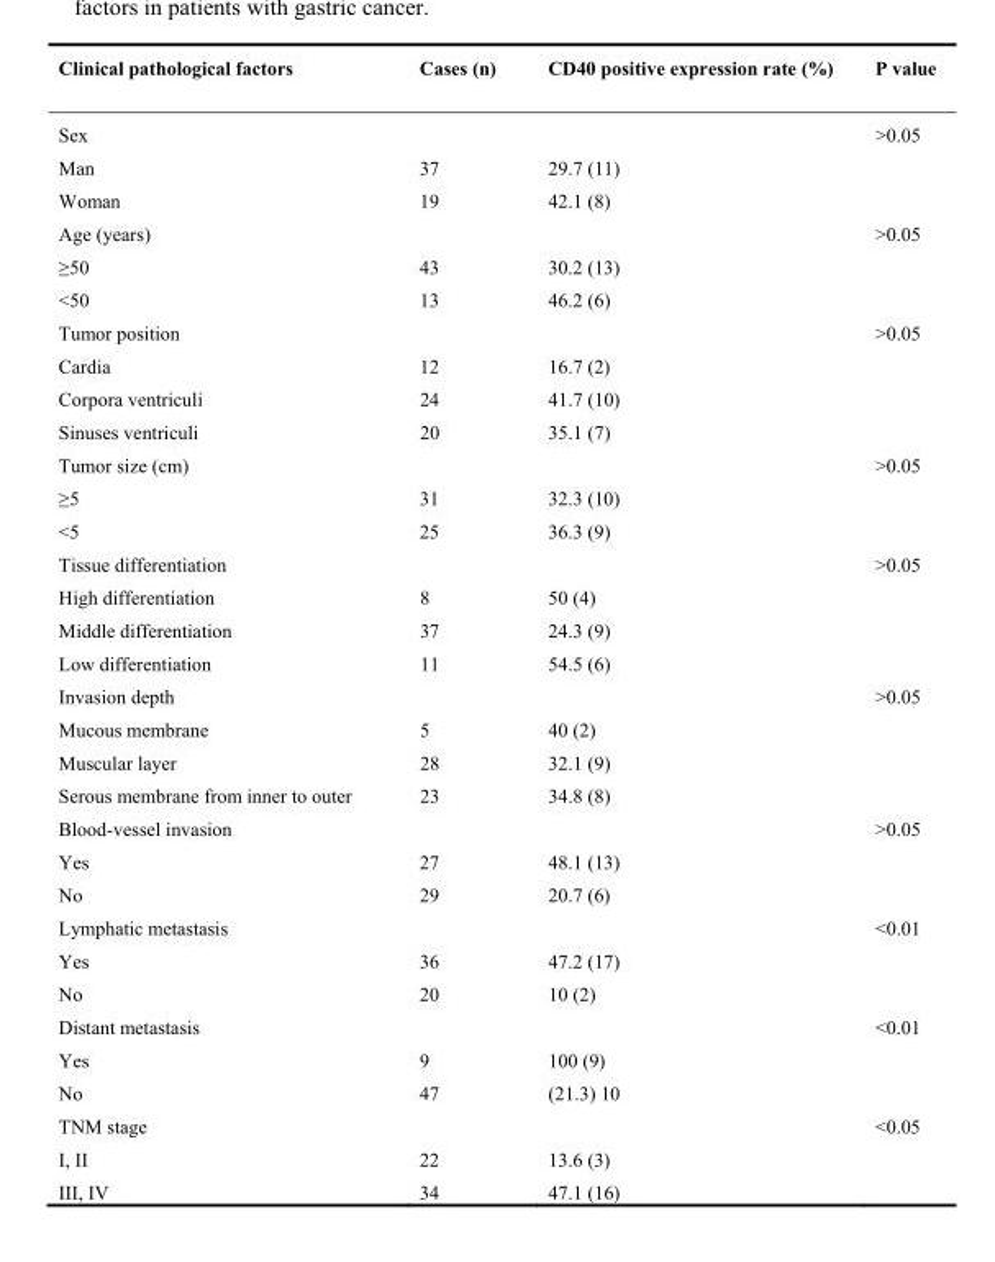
<table><thead><tr><td>Clinical pathological factors</td><td>Cases (n)</td><td>CD40 positive expression rate (%)</td><td>P value</td></tr></thead><tbody><tr><td>Sex</td><td></td><td></td><td>&gt;0.05</td></tr><tr><td>Man</td><td>37</td><td>29.7 (11)</td><td></td></tr><tr><td>Woman</td><td>19</td><td>42.1 (8)</td><td></td></tr><tr><td>Age (years)</td><td></td><td></td><td>&gt;0.05</td></tr><tr><td>≥50</td><td>43</td><td>30.2 (13)</td><td></td></tr><tr><td>&lt;50</td><td>13</td><td>46.2 (6)</td><td></td></tr><tr><td>Tumor position</td><td></td><td></td><td>&gt;0.05</td></tr><tr><td>Cardia</td><td>12</td><td>16.7 (2)</td><td></td></tr><tr><td>Corpora ventriculi</td><td>24</td><td>41.7 (10)</td><td></td></tr><tr><td>Sinuses ventriculi</td><td>20</td><td>35.1 (7)</td><td></td></tr><tr><td>Tumor size (cm)</td><td></td><td></td><td>&gt;0.05</td></tr><tr><td>≥5</td><td>31</td><td>32.3 (10)</td><td></td></tr><tr><td>&lt;5</td><td>25</td><td>36.3 (9)</td><td></td></tr><tr><td>Tissue differentiation</td><td></td><td></td><td>&gt;0.05</td></tr><tr><td>High differentiation</td><td>8</td><td>50 (4)</td><td></td></tr><tr><td>Middle differentiation</td><td>37</td><td>24.3 (9)</td><td></td></tr><tr><td>Low differentiation</td><td>11</td><td>54.5 (6)</td><td></td></tr><tr><td>Invasion depth</td><td></td><td></td><td>&gt;0.05</td></tr><tr><td>Mucous membrane</td><td>5</td><td>40 (2)</td><td></td></tr><tr><td>Muscular layer</td><td>28</td><td>32.1 (9)</td><td></td></tr><tr><td>Serous membrane from inner to outer</td><td>23</td><td>34.8 (8)</td><td></td></tr><tr><td>Blood-vessel invasion</td><td></td><td></td><td>&gt;0.05</td></tr><tr><td>Yes</td><td>27</td><td>48.1 (13)</td><td></td></tr><tr><td>No</td><td>29</td><td>20.7 (6)</td><td></td></tr><tr><td>Lymphatic metastasis</td><td></td><td></td><td>&lt;0.01</td></tr><tr><td>Yes</td><td>36</td><td>47.2 (17)</td><td></td></tr><tr><td>No</td><td>20</td><td>10 (2)</td><td></td></tr><tr><td>Distant metastasis</td><td></td><td></td><td>&lt;0.01</td></tr><tr><td>Yes</td><td>9</td><td>100 (9)</td><td></td></tr><tr><td>No</td><td>47</td><td>(21.3) 10</td><td></td></tr><tr><td>TNM stage</td><td></td><td></td><td>&lt;0.05</td></tr><tr><td>I, II</td><td>22</td><td>13.6 (3)</td><td></td></tr><tr><td>III, IV</td><td>34</td><td>47.1 (16)</td><td></td></tr></tbody></table>